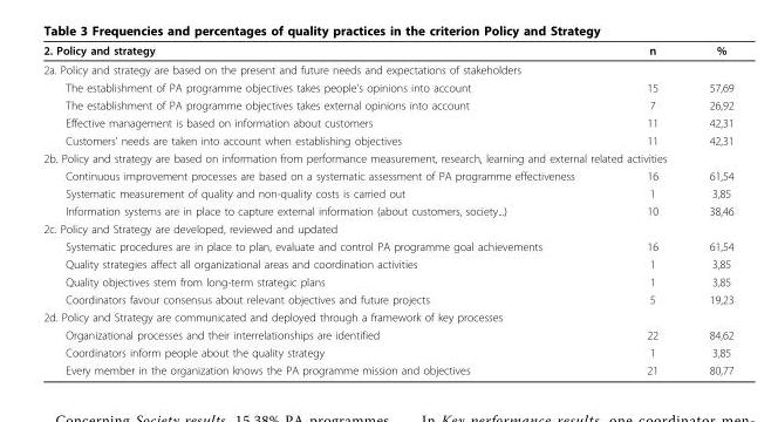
<table><thead><tr><td>2. Policy and strategy</td><td>n</td><td>%</td></tr></thead><tbody><tr><td colspan="3">2a. Policy and strategy are based on the present and future needs and expectations of stakeholders</td></tr><tr><td>The establishment of PA programme objectives takes people’s opinions into account</td><td>15</td><td>57,69</td></tr><tr><td>The establishment of PA programme objectives takes external opinions into account</td><td>7</td><td>26,92</td></tr><tr><td>Effective management is based on information about customers</td><td>11</td><td>42,31</td></tr><tr><td>Customers’ needs are taken into account when establishing objectives</td><td>11</td><td>42,31</td></tr><tr><td colspan="3">2b. Policy and strategy are based on information from performance measurement, research, learning and external related activities</td></tr><tr><td>Continuous improvement processes are based on a systematic assessment of PA programme effectiveness</td><td>16</td><td>61,54</td></tr><tr><td>Systematic measurement of quality and non-quality costs is carried out</td><td>1</td><td>3,85</td></tr><tr><td>Information systems are in place to capture external information (about customers, society...)</td><td>10</td><td>38,46</td></tr><tr><td colspan="3">2c. Policy and Strategy are developed, reviewed and updated</td></tr><tr><td>Systematic procedures are in place to plan, evaluate and control PA programme goal achievements</td><td>16</td><td>61,54</td></tr><tr><td>Quality strategies affect all organizational areas and coordination activities</td><td>1</td><td>3,85</td></tr><tr><td>Quality objectives stem from long-term strategic plans</td><td>1</td><td>3,85</td></tr><tr><td>Coordinators favour consensus about relevant objectives and future projects</td><td>5</td><td>19,23</td></tr><tr><td colspan="3">2d. Policy and Strategy are communicated and deployed through a framework of key processes</td></tr><tr><td>Organizational processes and their interrelationships are identified</td><td>22</td><td>84,62</td></tr><tr><td>Coordinators inform people about the quality strategy</td><td>1</td><td>3,85</td></tr><tr><td>Every member in the organization knows the PA programme mission and objectives</td><td>21</td><td>80,77</td></tr></tbody></table>